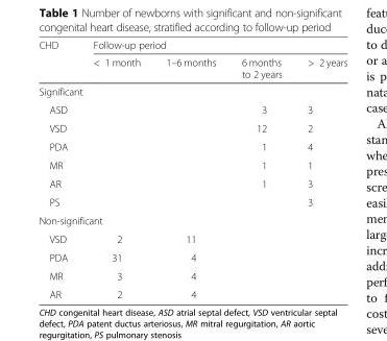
<table><thead><tr><td rowspan="2">CHD</td><td colspan="4">Follow-up period</td></tr><tr><td>&lt; 1 month</td><td>1–6 months</td><td>6 months to 2 years</td><td>&gt; 2 years</td></tr></thead><tbody><tr><td colspan="5">Significant</td></tr><tr><td>ASD</td><td></td><td></td><td>3</td><td>3</td></tr><tr><td>VSD</td><td></td><td></td><td>12</td><td>2</td></tr><tr><td>PDA</td><td></td><td></td><td>1</td><td>4</td></tr><tr><td>MR</td><td></td><td></td><td>1</td><td>1</td></tr><tr><td>AR</td><td></td><td></td><td>1</td><td>3</td></tr><tr><td>PS</td><td></td><td></td><td></td><td>3</td></tr><tr><td colspan="5">Non-significant</td></tr><tr><td>VSD</td><td>2</td><td>11</td><td></td><td></td></tr><tr><td>PDA</td><td>31</td><td>4</td><td></td><td></td></tr><tr><td>MR</td><td>3</td><td>4</td><td></td><td></td></tr><tr><td>AR</td><td>2</td><td>4</td><td></td><td></td></tr></tbody></table>